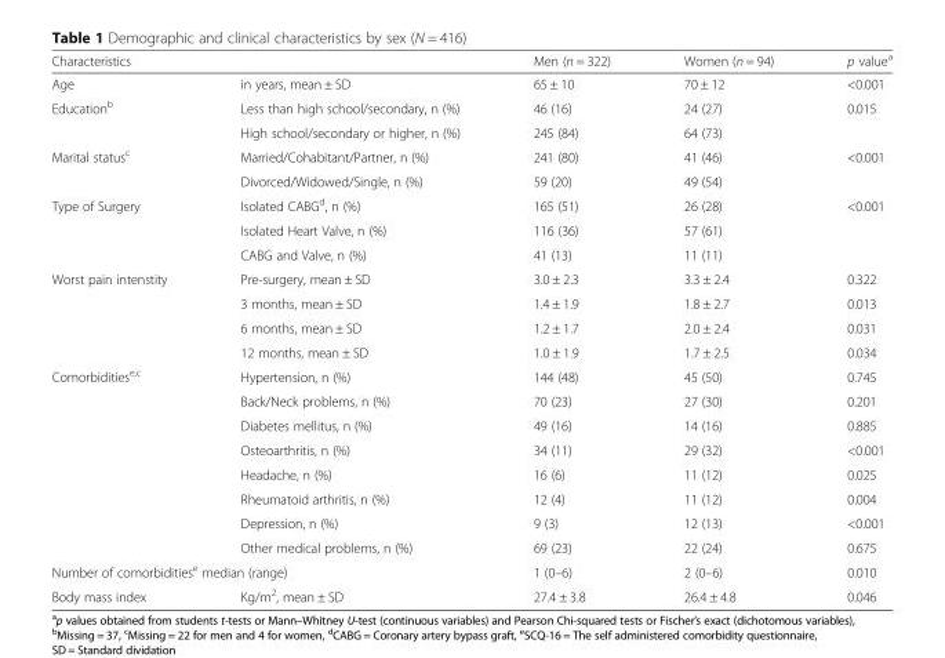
<table><thead><tr><td>Characteristics</td><td></td><td>Men (n = 322)</td><td>Women (n = 94)</td><td>p value<sup>a</sup></td></tr></thead><tbody><tr><td>Age</td><td>in years, mean ± SD</td><td>65 ± 10</td><td>70 ± 12</td><td>&lt;0.001</td></tr><tr><td rowspan="2">Education<sup>b</sup></td><td>Less than high school/secondary, n (%)</td><td>46 (16)</td><td>24 (27)</td><td rowspan="2">0.015</td></tr><tr><td>High school/secondary or higher, n (%)</td><td>245 (84)</td><td>64 (73)</td></tr><tr><td rowspan="2">Marital status<sup>c</sup></td><td>Married/Cohabitant/Partner, n (%)</td><td>241 (80)</td><td>41 (46)</td><td rowspan="2">&lt;0.001</td></tr><tr><td>Divorced/Widowed/Single, n (%)</td><td>59 (20)</td><td>49 (54)</td></tr><tr><td rowspan="3">Type of Surgery</td><td>Isolated CABG<sup>d</sup>, n (%)</td><td>165 (51)</td><td>26 (28)</td><td rowspan="3">&lt;0.001</td></tr><tr><td>Isolated Heart Valve, n (%)</td><td>116 (36)</td><td>57 (61)</td></tr><tr><td>CABG and Valve, n (%)</td><td>41 (13)</td><td>11 (11)</td></tr><tr><td rowspan="4">Worst pain intenstity</td><td>Pre-surgery, mean ± SD</td><td>3.0 ± 2.3</td><td>3.3 ± 2.4</td><td>0.322</td></tr><tr><td>3 months, mean ± SD</td><td>1.4 ± 1.9</td><td>1.8 ± 2.7</td><td>0.013</td></tr><tr><td>6 months, mean ± SD</td><td>1.2 ± 1.7</td><td>2.0 ± 2.4</td><td>0.031</td></tr><tr><td>12 months, mean ± SD</td><td>1.0 ± 1.9</td><td>1.7 ± 2.5</td><td>0.034</td></tr><tr><td rowspan="8">Comorbidities<sup>e,c</sup></td><td>Hypertension, n (%)</td><td>144 (48)</td><td>45 (50)</td><td>0.745</td></tr><tr><td>Back/Neck problems, n (%)</td><td>70 (23)</td><td>27 (30)</td><td>0.201</td></tr><tr><td>Diabetes mellitus, n (%)</td><td>49 (16)</td><td>14 (16)</td><td>0.885</td></tr><tr><td>Osteoarthritis, n (%)</td><td>34 (11)</td><td>29 (32)</td><td>&lt;0.001</td></tr><tr><td>Headache, n (%)</td><td>16 (6)</td><td>11 (12)</td><td>0.025</td></tr><tr><td>Rheumatoid arthritis, n (%)</td><td>12 (4)</td><td>11 (12)</td><td>0.004</td></tr><tr><td>Depression, n (%)</td><td>9 (3)</td><td>12 (13)</td><td>&lt;0.001</td></tr><tr><td>Other medical problems, n (%)</td><td>69 (23)</td><td>22 (24)</td><td>0.675</td></tr><tr><td colspan="2">Number of comorbidities<sup>e</sup> median (range)</td><td>1 (0–6)</td><td>2 (0–6)</td><td>0.010</td></tr><tr><td>Body mass index</td><td>Kg/m<sup>2</sup>, mean ± SD</td><td>27.4 ± 3.8</td><td>26.4 ± 4.8</td><td>0.046</td></tr></tbody></table>